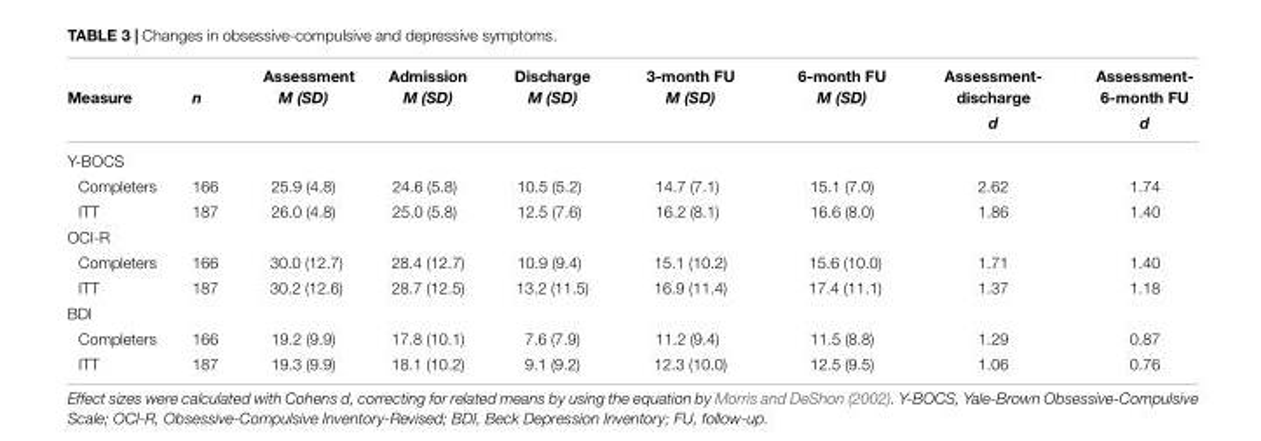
<table><thead><tr><td rowspan="2">Measure</td><td rowspan="2">n</td><td rowspan="2">Assessment M (SD)</td><td rowspan="2">Admission M (SD)</td><td rowspan="2">Discharge M (SD)</td><td rowspan="2">3-month FU M (SD)</td><td rowspan="2">6-month FU M (SD)</td><td rowspan="2">Assessment- discharge d</td><td rowspan="2">Assessment- 6-month FU d</td></tr><tr></tr></thead><tbody><tr><td colspan="9">Y-BOCS</td></tr><tr><td>Completers</td><td>166</td><td>25.9 (4.8)</td><td>24.6 (5.8)</td><td>10.5 (5.2)</td><td>14.7 (7.1)</td><td>15.1 (7.0)</td><td>2.62</td><td>1.74</td></tr><tr><td>ITT</td><td>187</td><td>26.0 (4.8)</td><td>25.0 (5.8)</td><td>12.5 (7.6)</td><td>16.2 (8.1)</td><td>16.6 (8.0)</td><td>1.86</td><td>1.40</td></tr><tr><td colspan="9">OCI-R</td></tr><tr><td>Completers</td><td>166</td><td>30.0 (12.7)</td><td>28.4 (12.7)</td><td>10.9 (9.4)</td><td>15.1 (10.2)</td><td>15.6 (10.0)</td><td>1.71</td><td>1.40</td></tr><tr><td>ITT</td><td>187</td><td>30.2 (12.6)</td><td>28.7 (12.5)</td><td>13.2 (11.5)</td><td>16.9 (11.4)</td><td>17.4 (11.1)</td><td>1.37</td><td>1.18</td></tr><tr><td colspan="9">BDI</td></tr><tr><td>Completers</td><td>166</td><td>19.2 (9.9)</td><td>17.8 (10.1)</td><td>7.6 (7.9)</td><td>11.2 (9.4)</td><td>11.5 (8.8)</td><td>1.29</td><td>0.87</td></tr><tr><td>ITT</td><td>187</td><td>19.3 (9.9)</td><td>18.1 (10.2)</td><td>9.1 (9.2)</td><td>12.3 (10.0)</td><td>12.5 (9.5)</td><td>1.06</td><td>0.76</td></tr></tbody></table>